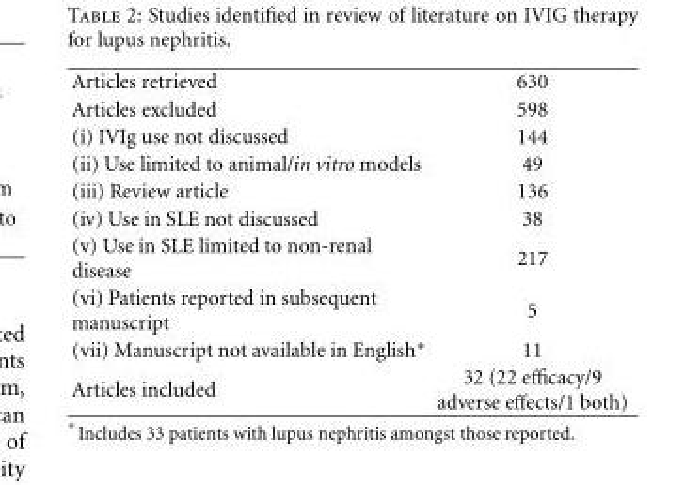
<table><tbody><tr><td>Articles retrieved</td><td>630</td></tr><tr><td>Articles excluded</td><td>598</td></tr><tr><td>(i) IVIg use not discussed</td><td>144</td></tr><tr><td>(ii) Use limited to animal/in vitro models</td><td>49</td></tr><tr><td>(iii) Review article</td><td>136</td></tr><tr><td>(iv) Use in SLE not discussed</td><td>38</td></tr><tr><td>(v) Use in SLE limited to non-renal disease</td><td>217</td></tr><tr><td>(vi) Patients reported in subsequent manuscript</td><td>5</td></tr><tr><td>(vii) Manuscript not available in English∗</td><td>11</td></tr><tr><td>Articles included</td><td>32 (22 efficacy/9 adverse effects/1 both)</td></tr></tbody></table>